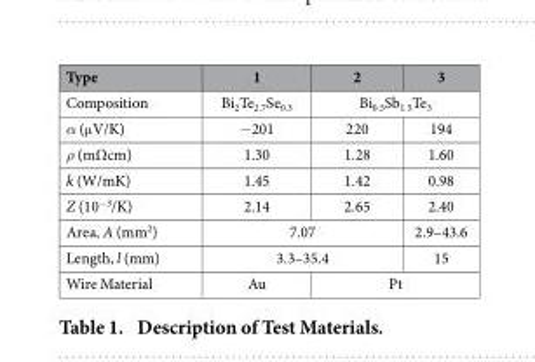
<table><thead><tr><td>Type</td><td>1</td><td>2</td><td>3</td></tr></thead><tbody><tr><td>Composition</td><td>Bi<sub>2</sub>Te<sub>2.7</sub>Se<sub>0.3</sub></td><td colspan="2">Bi<sub>0.5</sub>Sb<sub>1.5</sub>Te<sub>3</sub></td></tr><tr><td>α (μ V/K)</td><td>− 201</td><td>220</td><td>194</td></tr><tr><td>ρ (mΩcm)</td><td>1.30</td><td>1.28</td><td>1.60</td></tr><tr><td>k (W/mK)</td><td>1.45</td><td>1.42</td><td>0.98</td></tr><tr><td>Z (10<sup>−3</sup>/K)</td><td>2.14</td><td>2.65</td><td>2.40</td></tr><tr><td>Area, A (mm<sup>2</sup>)</td><td colspan="2">7.07</td><td>2.9–43.6</td></tr><tr><td>Length, l (mm)</td><td colspan="2">3.3–35.4</td><td>15</td></tr><tr><td>Wire Material</td><td>Au</td><td colspan="2">Pt</td></tr></tbody></table>